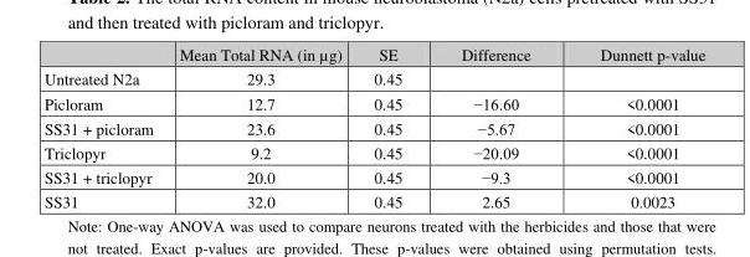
<table><thead><tr><td></td><td>Mean Total RNA (in µg)</td><td>SE</td><td>Difference</td><td>Dunnett p-value</td></tr></thead><tbody><tr><td>Untreated N2a</td><td>29.3</td><td>0.45</td><td></td><td></td></tr><tr><td>Picloram</td><td>12.7</td><td>0.45</td><td>−16.60</td><td>&lt;0.0001</td></tr><tr><td>SS31 + picloram</td><td>23.6</td><td>0.45</td><td>−5.67</td><td>&lt;0.0001</td></tr><tr><td>Triclopyr</td><td>9.2</td><td>0.45</td><td>−20.09</td><td>&lt;0.0001</td></tr><tr><td>SS31 + triclopyr</td><td>20.0</td><td>0.45</td><td>−9.3</td><td>&lt;0.0001</td></tr><tr><td>SS31</td><td>32.0</td><td>0.45</td><td>2.65</td><td>0.0023</td></tr></tbody></table>